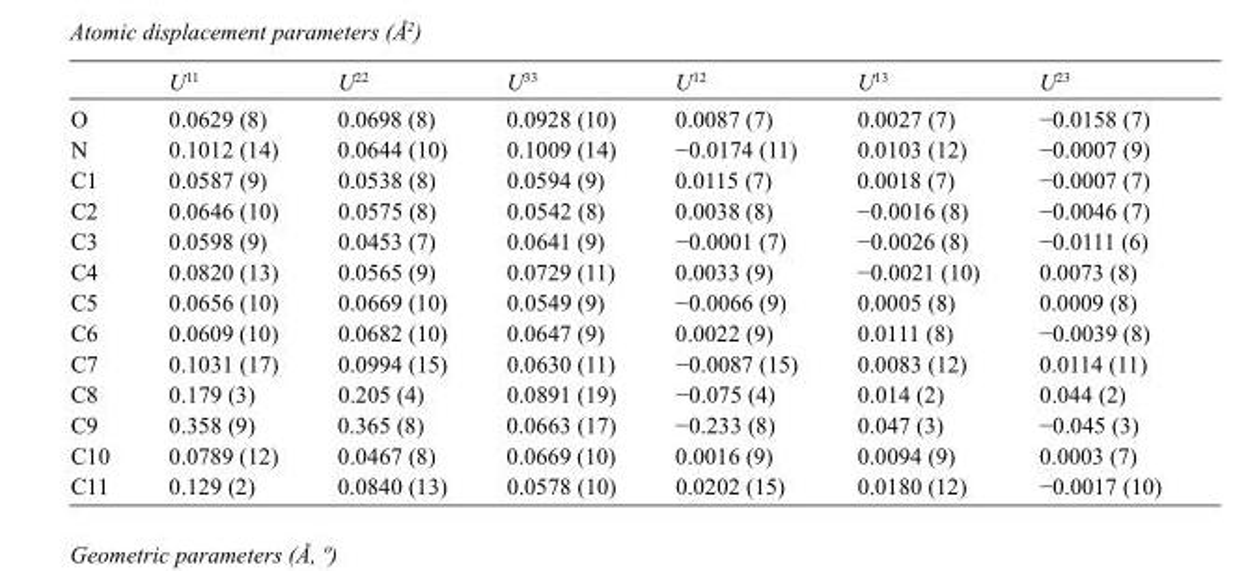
<table><thead><tr><td></td><td>U<sup>11</sup></td><td>U<sup>22</sup></td><td>U<sup>33</sup></td><td>U<sup>12</sup></td><td>U<sup>13</sup></td><td>U<sup>23</sup></td></tr></thead><tbody><tr><td>O</td><td>0.0629 (8)</td><td>0.0698 (8)</td><td>0.0928 (10)</td><td>0.0087 (7)</td><td>0.0027 (7)</td><td>−0.0158 (7)</td></tr><tr><td>N</td><td>0.1012 (14)</td><td>0.0644 (10)</td><td>0.1009 (14)</td><td>−0.0174 (11)</td><td>0.0103 (12)</td><td>−0.0007 (9)</td></tr><tr><td>C1</td><td>0.0587 (9)</td><td>0.0538 (8)</td><td>0.0594 (9)</td><td>0.0115 (7)</td><td>0.0018 (7)</td><td>−0.0007 (7)</td></tr><tr><td>C2</td><td>0.0646 (10)</td><td>0.0575 (8)</td><td>0.0542 (8)</td><td>0.0038 (8)</td><td>−0.0016 (8)</td><td>−0.0046 (7)</td></tr><tr><td>C3</td><td>0.0598 (9)</td><td>0.0453 (7)</td><td>0.0641 (9)</td><td>−0.0001 (7)</td><td>−0.0026 (8)</td><td>−0.0111 (6)</td></tr><tr><td>C4</td><td>0.0820 (13)</td><td>0.0565 (9)</td><td>0.0729 (11)</td><td>0.0033 (9)</td><td>−0.0021 (10)</td><td>0.0073 (8)</td></tr><tr><td>C5</td><td>0.0656 (10)</td><td>0.0669 (10)</td><td>0.0549 (9)</td><td>−0.0066 (9)</td><td>0.0005 (8)</td><td>0.0009 (8)</td></tr><tr><td>C6</td><td>0.0609 (10)</td><td>0.0682 (10)</td><td>0.0647 (9)</td><td>0.0022 (9)</td><td>0.0111 (8)</td><td>−0.0039 (8)</td></tr><tr><td>C7</td><td>0.1031 (17)</td><td>0.0994 (15)</td><td>0.0630 (11)</td><td>−0.0087 (15)</td><td>0.0083 (12)</td><td>0.0114 (11)</td></tr><tr><td>C8</td><td>0.179 (3)</td><td>0.205 (4)</td><td>0.0891 (19)</td><td>−0.075 (4)</td><td>0.014 (2)</td><td>0.044 (2)</td></tr><tr><td>C9</td><td>0.358 (9)</td><td>0.365 (8)</td><td>0.0663 (17)</td><td>−0.233 (8)</td><td>0.047 (3)</td><td>−0.045 (3)</td></tr><tr><td>C10</td><td>0.0789 (12)</td><td>0.0467 (8)</td><td>0.0669 (10)</td><td>0.0016 (9)</td><td>0.0094 (9)</td><td>0.0003 (7)</td></tr><tr><td>C11</td><td>0.129 (2)</td><td>0.0840 (13)</td><td>0.0578 (10)</td><td>0.0202 (15)</td><td>0.0180 (12)</td><td>−0.0017 (10)</td></tr></tbody></table>